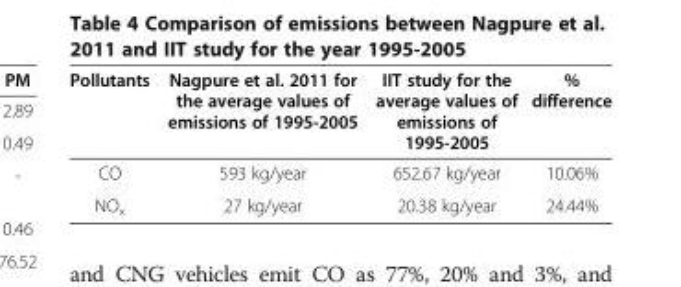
<table><thead><tr><td>Pollutants</td><td>Nagpure et al. 2011 for the average values of emissions of 1995-2005</td><td>IIT study for the average values of emissions of 1995-2005</td><td>% difference</td></tr></thead><tbody><tr><td>CO</td><td>593 kg/year</td><td>652.67 kg/year</td><td>10.06%</td></tr><tr><td>NO<sub>x</sub></td><td>27 kg/year</td><td>20.38 kg/year</td><td>24.44%</td></tr></tbody></table>